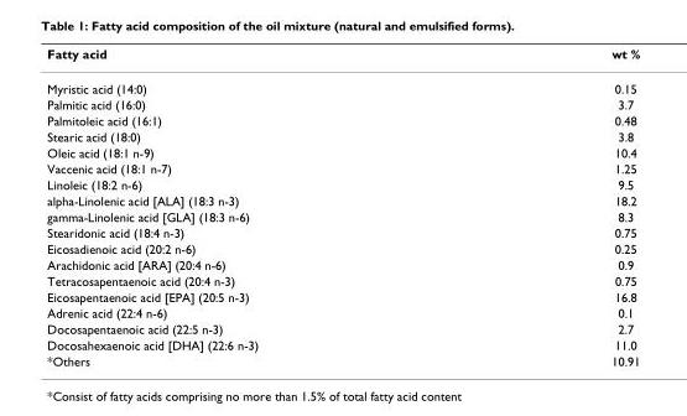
<table><thead><tr><td>Fatty acid</td><td>wt %</td></tr></thead><tbody><tr><td>Myristic acid (14:0)</td><td>0.15</td></tr><tr><td>Palmitic acid (16:0)</td><td>3.7</td></tr><tr><td>Palmitoleic acid (16:1)</td><td>0.48</td></tr><tr><td>Stearic acid (18:0)</td><td>3.8</td></tr><tr><td>Oleic acid (18:1 n-9)</td><td>10.4</td></tr><tr><td>Vaccenic acid (18:1 n-7)</td><td>1.25</td></tr><tr><td>Linoleic (18:2 n-6)</td><td>9.5</td></tr><tr><td>alpha-Linolenic acid [ALA] (18:3 n-3)</td><td>18.2</td></tr><tr><td>gamma-Linolenic acid [GLA] (18:3 n-6)</td><td>8.3</td></tr><tr><td>Stearidonic acid (18:4 n-3)</td><td>0.75</td></tr><tr><td>Eicosadienoic acid (20:2 n-6)</td><td>0.25</td></tr><tr><td>Arachidonic acid [ARA] (20:4 n-6)</td><td>0.9</td></tr><tr><td>Tetracosapentaenoic acid (20:4 n-3)</td><td>0.75</td></tr><tr><td>Eicosapentaenoic acid [EPA] (20:5 n-3)</td><td>16.8</td></tr><tr><td>Adrenic acid (22:4 n-6)</td><td>0.1</td></tr><tr><td>Docosapentaenoic acid (22:5 n-3)</td><td>2.7</td></tr><tr><td>Docosahexaenoic acid [DHA] (22:6 n-3)</td><td>11.0</td></tr><tr><td>*Others</td><td>10.91</td></tr></tbody></table>